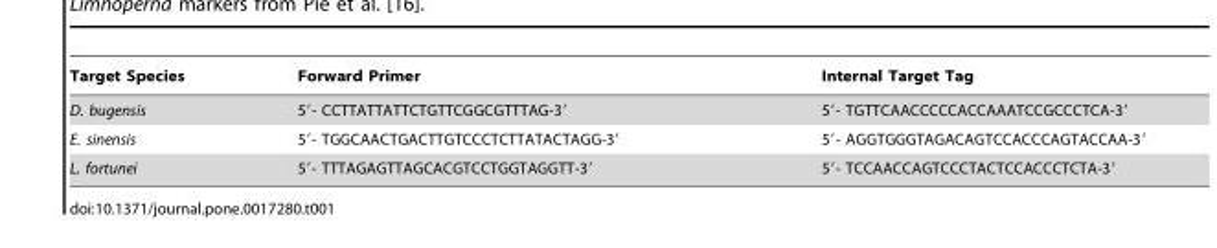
<table><thead><tr><td>Target Species</td><td>Forward Primer</td><td>Internal Target Tag</td></tr></thead><tbody><tr><td>D. bugensis</td><td>5′- CCTTATTATTCTGTTCGGCGTTTAG-3′</td><td>5′- TGTTCAACCCCCACCAAATCCGCCCTCA-3′</td></tr><tr><td>E. sinensis</td><td>5′- TGGCAACTGACTTGTCCCTCTTATACTAGG-3′</td><td>5′- AGGTGGGTAGACAGTCCACCCAGTACCAA-3′</td></tr><tr><td>L. fortunei</td><td>5′- TTTAGAGTTAGCACGTCCTGGTAGGTT-3′</td><td>5′- TCCAACCAGTCCCTACTCCACCCTCTA-3′</td></tr></tbody></table>